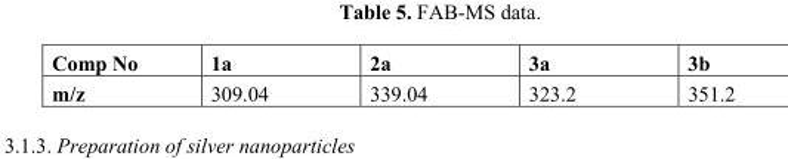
<table><thead><tr><td>Comp No</td><td>1a</td><td>2a</td><td>3a</td><td>3b</td></tr></thead><tbody><tr><td>m/z</td><td>309.04</td><td>339.04</td><td>323.2</td><td>351.2</td></tr></tbody></table>